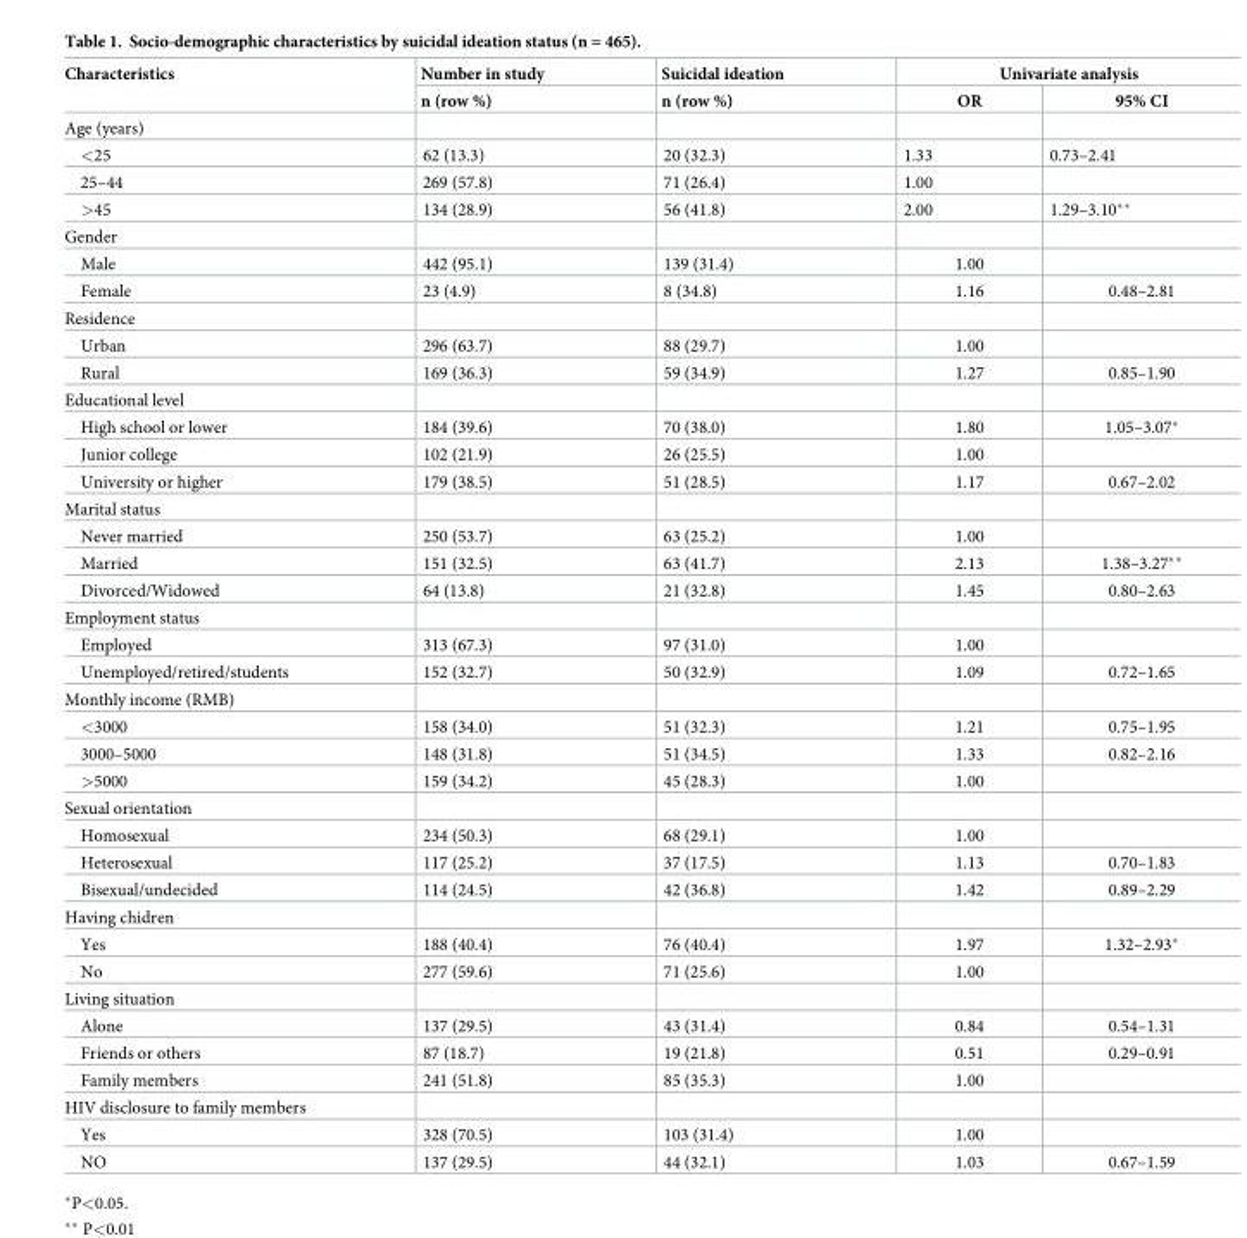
<table><thead><tr><td rowspan="2">Characteristics</td><td rowspan="2">Number in study n (row %)</td><td rowspan="2">Suicidal ideation n (row %)</td><td colspan="2">Univariate analysis</td></tr><tr><td>OR</td><td>95% CI</td></tr></thead><tbody><tr><td colspan="5">Age (years)</td></tr><tr><td>&lt;25</td><td>62 (13.3)</td><td>20 (32.3)</td><td>1.33</td><td>0.73–2.41</td></tr><tr><td>25–44</td><td>269 (57.8)</td><td>71 (26.4)</td><td>1.00</td><td></td></tr><tr><td>&gt;45</td><td>134 (28.9)</td><td>56 (41.8)</td><td>2.00</td><td>1.29–3.10**</td></tr><tr><td colspan="5">Gender</td></tr><tr><td>Male</td><td>442 (95.1)</td><td>139 (31.4)</td><td>1.00</td><td></td></tr><tr><td>Female</td><td>23 (4.9)</td><td>8 (34.8)</td><td>1.16</td><td>0.48–2.81</td></tr><tr><td colspan="5">Residence</td></tr><tr><td>Urban</td><td>296 (63.7)</td><td>88 (29.7)</td><td>1.00</td><td></td></tr><tr><td>Rural</td><td>169 (36.3)</td><td>59 (34.9)</td><td>1.27</td><td>0.85–1.90</td></tr><tr><td colspan="5">Educational level</td></tr><tr><td>High school or lower</td><td>184 (39.6)</td><td>70 (38.0)</td><td>1.80</td><td>1.05–3.07*</td></tr><tr><td>Junior college</td><td>102 (21.9)</td><td>26 (25.5)</td><td>1.00</td><td></td></tr><tr><td>University or higher</td><td>179 (38.5)</td><td>51 (28.5)</td><td>1.17</td><td>0.67–2.02</td></tr><tr><td colspan="5">Marital status</td></tr><tr><td>Never married</td><td>250 (53.7)</td><td>63 (25.2)</td><td>1.00</td><td></td></tr><tr><td>Married</td><td>151 (32.5)</td><td>63 (41.7)</td><td>2.13</td><td>1.38–3.27**</td></tr><tr><td>Divorced/Widowed</td><td>64 (13.8)</td><td>21 (32.8)</td><td>1.45</td><td>0.80–2.63</td></tr><tr><td colspan="5">Employment status</td></tr><tr><td>Employed</td><td>313 (67.3)</td><td>97 (31.0)</td><td>1.00</td><td></td></tr><tr><td>Unemployed/retired/students</td><td>152 (32.7)</td><td>50 (32.9)</td><td>1.09</td><td>0.72–1.65</td></tr><tr><td colspan="5">Monthly income (RMB)</td></tr><tr><td>&lt;3000</td><td>158 (34.0)</td><td>51 (32.3)</td><td>1.21</td><td>0.75–1.95</td></tr><tr><td>3000–5000</td><td>148 (31.8)</td><td>51 (34.5)</td><td>1.33</td><td>0.82–2.16</td></tr><tr><td>&gt;5000</td><td>159 (34.2)</td><td>45 (28.3)</td><td>1.00</td><td></td></tr><tr><td colspan="5">Sexual orientation</td></tr><tr><td>Homosexual</td><td>234 (50.3)</td><td>68 (29.1)</td><td>1.00</td><td></td></tr><tr><td>Heterosexual</td><td>117 (25.2)</td><td>37 (17.5)</td><td>1.13</td><td>0.70–1.83</td></tr><tr><td>Bisexual/undecided</td><td>114 (24.5)</td><td>42 (36.8)</td><td>1.42</td><td>0.89–2.29</td></tr><tr><td colspan="5">Having chidren</td></tr><tr><td>Yes</td><td>188 (40.4)</td><td>76 (40.4)</td><td>1.97</td><td>1.32–2.93*</td></tr><tr><td>No</td><td>277 (59.6)</td><td>71 (25.6)</td><td>1.00</td><td></td></tr><tr><td colspan="5">Living situation</td></tr><tr><td>Alone</td><td>137 (29.5)</td><td>43 (31.4)</td><td>0.84</td><td>0.54–1.31</td></tr><tr><td>Friends or others</td><td>87 (18.7)</td><td>19 (21.8)</td><td>0.51</td><td>0.29–0.91</td></tr><tr><td>Family members</td><td>241 (51.8)</td><td>85 (35.3)</td><td>1.00</td><td></td></tr><tr><td colspan="5">HIV disclosure to family members</td></tr><tr><td>Yes</td><td>328 (70.5)</td><td>103 (31.4)</td><td>1.00</td><td></td></tr><tr><td>NO</td><td>137 (29.5)</td><td>44 (32.1)</td><td>1.03</td><td>0.67–1.59</td></tr></tbody></table>